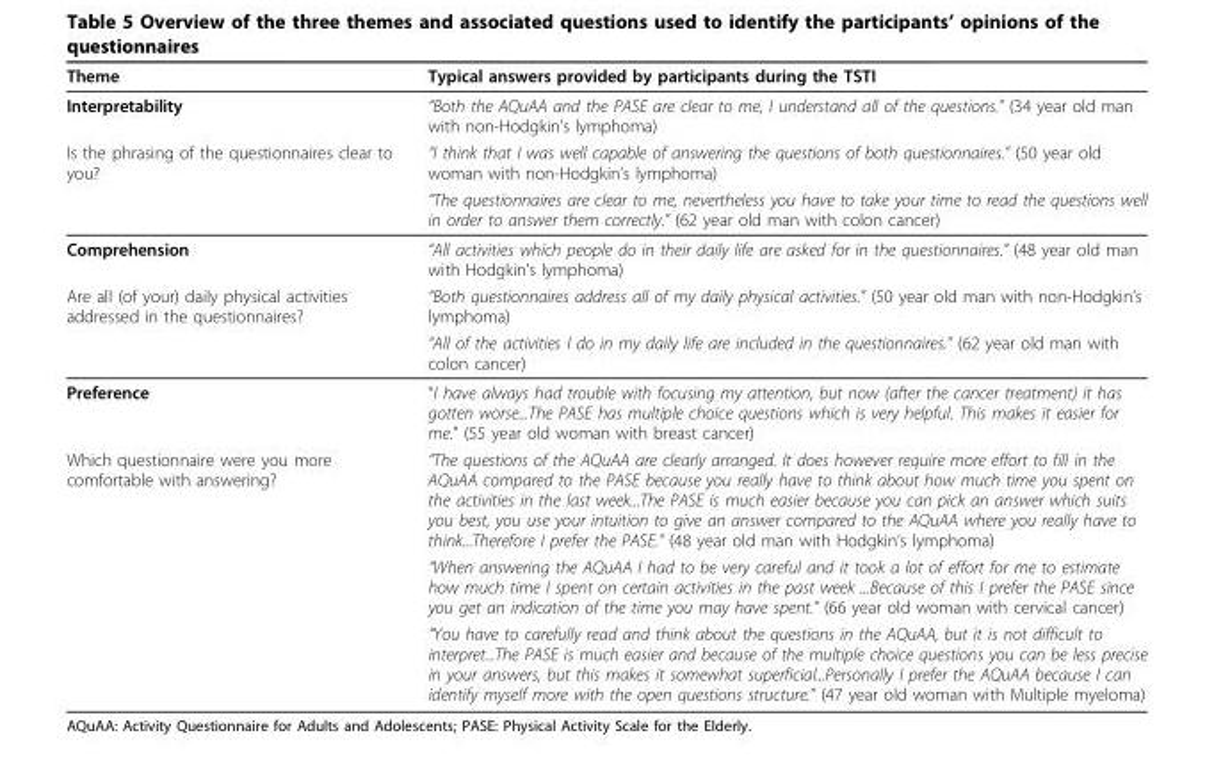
<table><thead><tr><td>Theme</td><td>Typical answers provided by participants during the TSTI</td></tr></thead><tbody><tr><td>Interpretability</td><td>“Both the AQuAA and the PASE are clear to me, I understand all of the questions.” (34 year old man with non-Hodgkin’s lymphoma)</td></tr><tr><td rowspan="2">Is the phrasing of the questionnaires clear to you?</td><td>“I think that I was well capable of answering the questions of both questionnaires.” (50 year old woman with non-Hodgkin’s lymphoma)</td></tr><tr><td>“The questionnaires are clear to me, nevertheless you have to take your time to read the questions well in order to answer them correctly.” (62 year old man with colon cancer)</td></tr><tr><td>Comprehension</td><td>“All activities which people do in their daily life are asked for in the questionnaires.” (48 year old man with Hodgkin’s lymphoma)</td></tr><tr><td rowspan="2">Are all (of your) daily physical activities addressed in the questionnaires?</td><td>“Both questionnaires address all of my daily physical activities.” (50 year old man with non-Hodgkin’s lymphoma)</td></tr><tr><td>“All of the activities I do in my daily life are included in the questionnaires.” (62 year old man with colon cancer)</td></tr><tr><td>Preference</td><td>“I have always had trouble with focusing my attention, but now (after the cancer treatment) it has gotten worse...The PASE has multiple choice questions which is very helpful. This makes it easier for me.” (55 year old woman with breast cancer)</td></tr><tr><td rowspan="3">Which questionnaire were you more comfortable with answering?</td><td>“The questions of the AQuAA are clearly arranged. It does however require more effort to fill in the AQuAA compared to the PASE because you really have to think about how much time you spent on the activities in the last week...The PASE is much easier because you can pick an answer which suits you best, you use your intuition to give an answer compared to the AQuAA where you really have to think...Therefore I prefer the PASE.” (48 year old man with Hodgkin’s lymphoma)</td></tr><tr><td>“When answering the AQuAA I had to be very careful and it took a lot of effort for me to estimate how much time I spent on certain activities in the past week ...Because of this I prefer the PASE since you get an indication of the time you may have spent.” (66 year old woman with cervical cancer)</td></tr><tr><td>“You have to carefully read and think about the questions in the AQuAA, but it is not difficult to interpret...The PASE is much easier and because of the multiple choice questions you can be less precise in your answers, but this makes it somewhat superficial...Personally I prefer the AQuAA because I can identify myself more with the open questions structure.” (47 year old woman with Multiple myeloma)</td></tr></tbody></table>